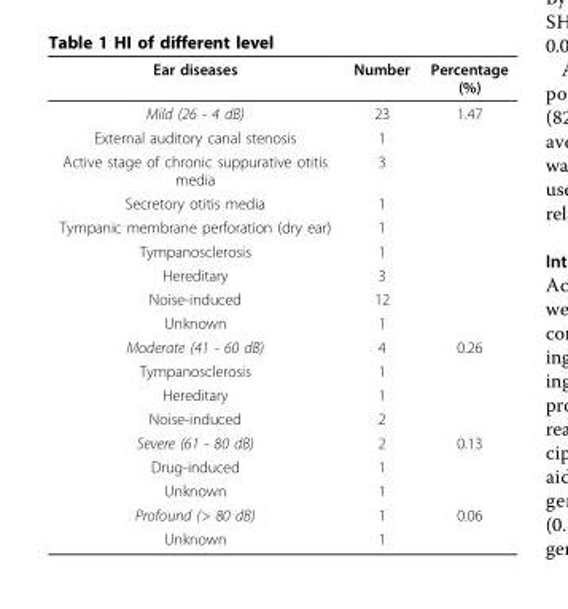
<table><thead><tr><td>Ear diseases</td><td>Number</td><td>Percentage (%)</td></tr></thead><tbody><tr><td>Mild (26 - 4 dB)</td><td>23</td><td>1.47</td></tr><tr><td>External auditory canal stenosis</td><td>1</td><td></td></tr><tr><td>Active stage of chronic suppurative otitis media</td><td>3</td><td></td></tr><tr><td>Secretory otitis media</td><td>1</td><td></td></tr><tr><td>Tympanic membrane perforation (dry ear)</td><td>1</td><td></td></tr><tr><td>Tympanosclerosis</td><td>1</td><td></td></tr><tr><td>Hereditary</td><td>3</td><td></td></tr><tr><td>Noise-induced</td><td>12</td><td></td></tr><tr><td>Unknown</td><td>1</td><td></td></tr><tr><td>Moderate (41 - 60 dB)</td><td>4</td><td>0.26</td></tr><tr><td>Tympanosclerosis</td><td>1</td><td></td></tr><tr><td>Hereditary</td><td>1</td><td></td></tr><tr><td>Noise-induced</td><td>2</td><td></td></tr><tr><td>Severe (61 - 80 dB)</td><td>2</td><td>0.13</td></tr><tr><td>Drug-induced</td><td>1</td><td></td></tr><tr><td>Unknown</td><td>1</td><td></td></tr><tr><td>Profound (&gt; 80 dB)</td><td>1</td><td>0.06</td></tr><tr><td>Unknown</td><td>1</td><td></td></tr></tbody></table>